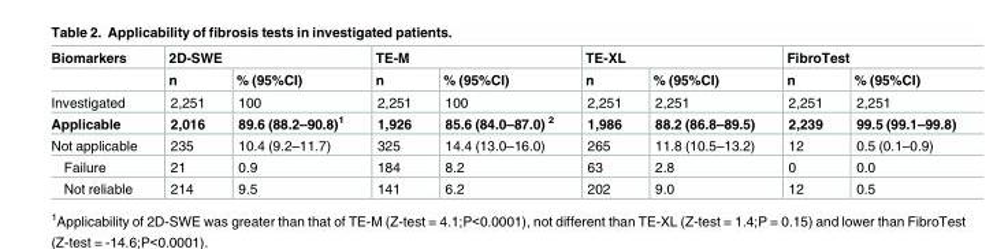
<table><thead><tr><td rowspan="2">Biomarkers</td><td colspan="2">2D-SWE</td><td colspan="2">TE-M</td><td colspan="2">TE-XL</td><td colspan="2">FibroTest</td></tr><tr><td>n</td><td>% (95%CI)</td><td>n</td><td>% (95%CI)</td><td>n</td><td>% (95%CI)</td><td>n</td><td>% (95%CI)</td></tr></thead><tbody><tr><td>Investigated</td><td>2,251</td><td>100</td><td>2,251</td><td>100</td><td>2,251</td><td>2,251</td><td>2,251</td><td>2,251</td></tr><tr><td>Applicable</td><td>2,016</td><td>89.6 (88.2–90.8)<sup>1</sup></td><td>1,926</td><td>85.6 (84.0–87.0) <sup>2</sup></td><td>1,986</td><td>88.2 (86.8–89.5)</td><td>2,239</td><td>99.5 (99.1–99.8)</td></tr><tr><td>Not applicable</td><td>235</td><td>10.4 (9.2–11.7)</td><td>325</td><td>14.4 (13.0–16.0)</td><td>265</td><td>11.8 (10.5–13.2)</td><td>12</td><td>0.5 (0.1–0.9)</td></tr><tr><td>Failure</td><td>21</td><td>0.9</td><td>184</td><td>8.2</td><td>63</td><td>2.8</td><td>0</td><td>0.0</td></tr><tr><td>Not reliable</td><td>214</td><td>9.5</td><td>141</td><td>6.2</td><td>202</td><td>9.0</td><td>12</td><td>0.5</td></tr></tbody></table>